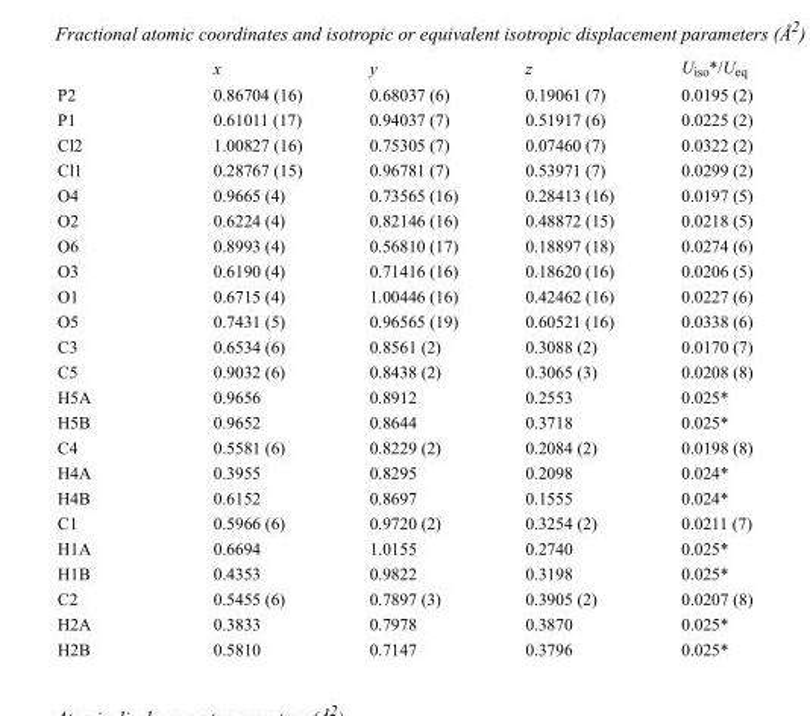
<table><thead><tr><td></td><td>x</td><td>y</td><td>z</td><td>U<sub>iso</sub>*/U<sub>eq</sub></td></tr></thead><tbody><tr><td>P2</td><td>0.86704 (16)</td><td>0.68037 (6)</td><td>0.19061 (7)</td><td>0.0195 (2)</td></tr><tr><td>P1</td><td>0.61011 (17)</td><td>0.94037 (7)</td><td>0.51917 (6)</td><td>0.0225 (2)</td></tr><tr><td>Cl2</td><td>1.00827 (16)</td><td>0.75305 (7)</td><td>0.07460 (7)</td><td>0.0322 (2)</td></tr><tr><td>Cl1</td><td>0.28767 (15)</td><td>0.96781 (7)</td><td>0.53971 (7)</td><td>0.0299 (2)</td></tr><tr><td>O4</td><td>0.9665 (4)</td><td>0.73565 (16)</td><td>0.28413 (16)</td><td>0.0197 (5)</td></tr><tr><td>O2</td><td>0.6224 (4)</td><td>0.82146 (16)</td><td>0.48872 (15)</td><td>0.0218 (5)</td></tr><tr><td>O6</td><td>0.8993 (4)</td><td>0.56810 (17)</td><td>0.18897 (18)</td><td>0.0274 (6)</td></tr><tr><td>O3</td><td>0.6190 (4)</td><td>0.71416 (16)</td><td>0.18620 (16)</td><td>0.0206 (5)</td></tr><tr><td>O1</td><td>0.6715 (4)</td><td>1.00446 (16)</td><td>0.42462 (16)</td><td>0.0227 (6)</td></tr><tr><td>O5</td><td>0.7431 (5)</td><td>0.96565 (19)</td><td>0.60521 (16)</td><td>0.0338 (6)</td></tr><tr><td>C3</td><td>0.6534 (6)</td><td>0.8561 (2)</td><td>0.3088 (2)</td><td>0.0170 (7)</td></tr><tr><td>C5</td><td>0.9032 (6)</td><td>0.8438 (2)</td><td>0.3065 (3)</td><td>0.0208 (8)</td></tr><tr><td>H5A</td><td>0.9656</td><td>0.8912</td><td>0.2553</td><td>0.025*</td></tr><tr><td>H5B</td><td>0.9652</td><td>0.8644</td><td>0.3718</td><td>0.025*</td></tr><tr><td>C4</td><td>0.5581 (6)</td><td>0.8229 (2)</td><td>0.2084 (2)</td><td>0.0198 (8)</td></tr><tr><td>H4A</td><td>0.3955</td><td>0.8295</td><td>0.2098</td><td>0.024*</td></tr><tr><td>H4B</td><td>0.6152</td><td>0.8697</td><td>0.1555</td><td>0.024*</td></tr><tr><td>C1</td><td>0.5966 (6)</td><td>0.9720 (2)</td><td>0.3254 (2)</td><td>0.0211 (7)</td></tr><tr><td>H1A</td><td>0.6694</td><td>1.0155</td><td>0.2740</td><td>0.025*</td></tr><tr><td>H1B</td><td>0.4353</td><td>0.9822</td><td>0.3198</td><td>0.025*</td></tr><tr><td>C2</td><td>0.5455 (6)</td><td>0.7897 (3)</td><td>0.3905 (2)</td><td>0.0207 (8)</td></tr><tr><td>H2A</td><td>0.3833</td><td>0.7978</td><td>0.3870</td><td>0.025*</td></tr><tr><td>H2B</td><td>0.5810</td><td>0.7147</td><td>0.3796</td><td>0.025*</td></tr></tbody></table>